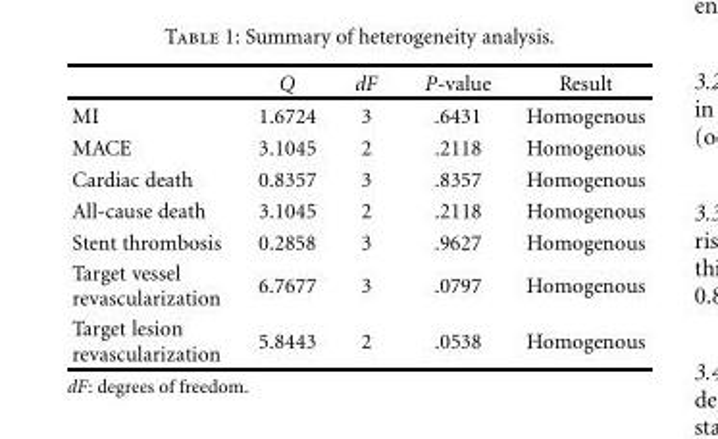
<table><thead><tr><td></td><td>Q</td><td>dF</td><td>P-value</td><td>Result</td></tr></thead><tbody><tr><td>MI</td><td>1.6724</td><td>3</td><td>.6431</td><td>Homogenous</td></tr><tr><td>MACE</td><td>3.1045</td><td>2</td><td>.2118</td><td>Homogenous</td></tr><tr><td>Cardiac death</td><td>0.8357</td><td>3</td><td>.8357</td><td>Homogenous</td></tr><tr><td>All-cause death</td><td>3.1045</td><td>2</td><td>.2118</td><td>Homogenous</td></tr><tr><td>Stent thrombosis</td><td>0.2858</td><td>3</td><td>.9627</td><td>Homogenous</td></tr><tr><td>Target vessel revascularization</td><td>6.7677</td><td>3</td><td>.0797</td><td>Homogenous</td></tr><tr><td>Target lesion revascularization</td><td>5.8443</td><td>2</td><td>.0538</td><td>Homogenous</td></tr></tbody></table>